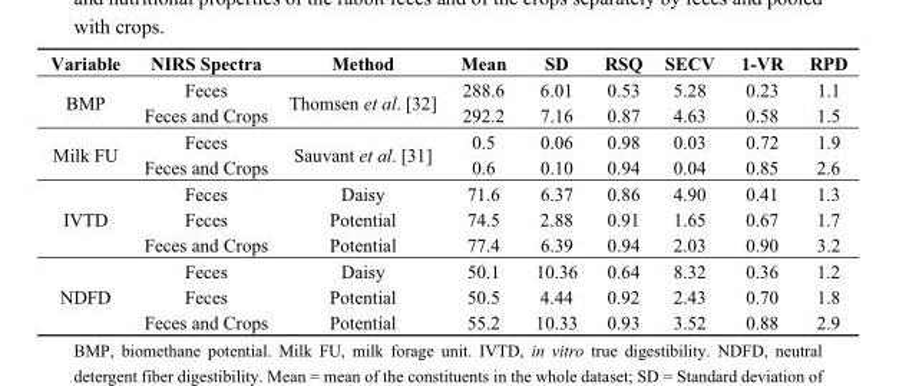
<table><thead><tr><td>Variable</td><td>NIRS Spectra</td><td>Method</td><td>Mean</td><td>SD</td><td>RSQ</td><td>SECV</td><td>1-VR</td><td>RPD</td></tr></thead><tbody><tr><td rowspan="2">BMP</td><td>Feces</td><td rowspan="2">Thomsen et al. [32]</td><td>288.6</td><td>6.01</td><td>0.53</td><td>5.28</td><td>0.23</td><td>1.1</td></tr><tr><td>Feces and Crops</td><td>292.2</td><td>7.16</td><td>0.87</td><td>4.63</td><td>0.58</td><td>1.5</td></tr><tr><td rowspan="2">Milk FU</td><td>Feces</td><td rowspan="2">Sauvant et al. [31]</td><td>0.5</td><td>0.06</td><td>0.98</td><td>0.03</td><td>0.72</td><td>1.9</td></tr><tr><td>Feces and Crops</td><td>0.6</td><td>0.10</td><td>0.94</td><td>0.04</td><td>0.85</td><td>2.6</td></tr><tr><td rowspan="3">IVTD</td><td>Feces</td><td>Daisy</td><td>71.6</td><td>6.37</td><td>0.86</td><td>4.90</td><td>0.41</td><td>1.3</td></tr><tr><td>Feces</td><td>Potential</td><td>74.5</td><td>2.88</td><td>0.91</td><td>1.65</td><td>0.67</td><td>1.7</td></tr><tr><td>Feces and Crops</td><td>Potential</td><td>77.4</td><td>6.39</td><td>0.94</td><td>2.03</td><td>0.90</td><td>3.2</td></tr><tr><td rowspan="3">NDFD</td><td>Feces</td><td>Daisy</td><td>50.1</td><td>10.36</td><td>0.64</td><td>8.32</td><td>0.36</td><td>1.2</td></tr><tr><td>Feces</td><td>Potential</td><td>50.5</td><td>4.44</td><td>0.92</td><td>2.43</td><td>0.70</td><td>1.8</td></tr><tr><td>Feces and Crops</td><td>Potential</td><td>55.2</td><td>10.33</td><td>0.93</td><td>3.52</td><td>0.88</td><td>2.9</td></tr></tbody></table>